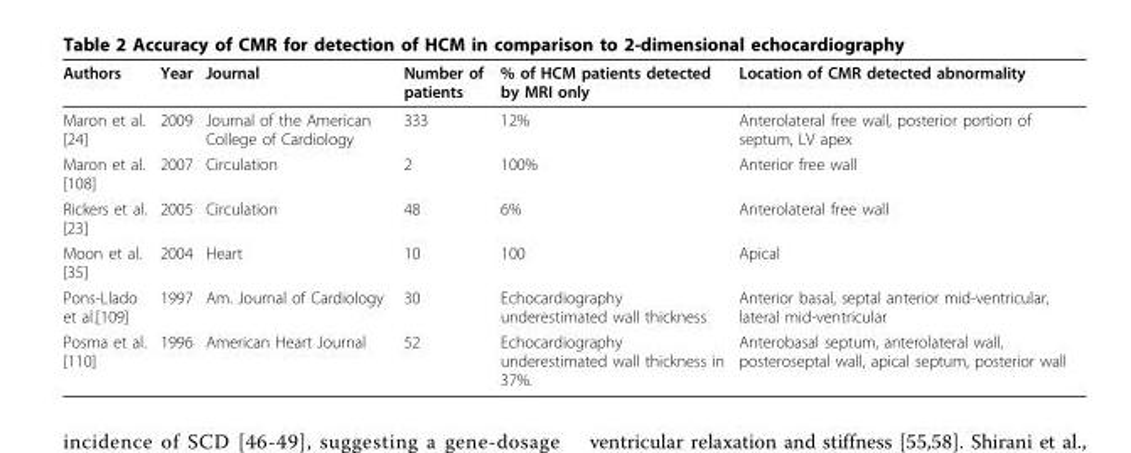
<table><thead><tr><td>Authors</td><td>Year</td><td>Journal</td><td>Number of patients</td><td>% of HCM patients detected by MRI only</td><td>Location of CMR detected abnormality</td></tr></thead><tbody><tr><td>Maron et al. [24]</td><td>2009</td><td>Journal of the American College of Cardiology</td><td>333</td><td>12%</td><td>Anterolateral free wall, posterior portion of septum, LV apex</td></tr><tr><td>Maron et al. [108]</td><td>2007</td><td>Circulation</td><td>2</td><td>100%</td><td>Anterior free wall</td></tr><tr><td>Rickers et al. [23]</td><td>2005</td><td>Circulation</td><td>48</td><td>6%</td><td>Anterolateral free wall</td></tr><tr><td>Moon et al. [35]</td><td>2004</td><td>Heart</td><td>10</td><td>100</td><td>Apical</td></tr><tr><td>Pons-Llado et al.[109]</td><td>1997</td><td>Am. Journal of Cardiology</td><td>30</td><td>Echocardiography underestimated wall thickness</td><td>Anterior basal, septal anterior mid-ventricular, lateral mid-ventricular</td></tr><tr><td>Posma et al. [110]</td><td>1996</td><td>American Heart Journal</td><td>52</td><td>Echocardiography underestimated wall thickness in 37%.</td><td>Anterobasal septum, anterolateral wall, posteroseptal wall, apical septum, posterior wall</td></tr></tbody></table>